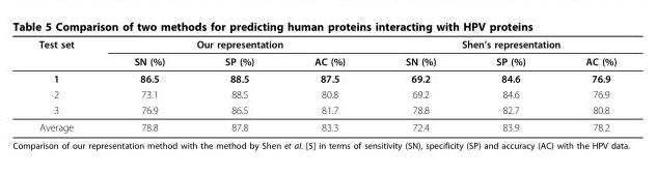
<table><thead><tr><td rowspan="2">Test set</td><td colspan="3">Our representation</td><td colspan="3">Shen’s representation</td></tr><tr><td>SN (%)</td><td>SP (%)</td><td>AC (%)</td><td>SN (%)</td><td>SP (%)</td><td>AC (%)</td></tr></thead><tbody><tr><td>1</td><td>86.5</td><td>88.5</td><td>87.5</td><td>69.2</td><td>84.6</td><td>76.9</td></tr><tr><td>2</td><td>73.1</td><td>88.5</td><td>80.8</td><td>69.2</td><td>84.6</td><td>76.9</td></tr><tr><td>3</td><td>76.9</td><td>86.5</td><td>81.7</td><td>78.8</td><td>82.7</td><td>80.8</td></tr><tr><td>Average</td><td>78.8</td><td>87.8</td><td>83.3</td><td>72.4</td><td>83.9</td><td>78.2</td></tr></tbody></table>